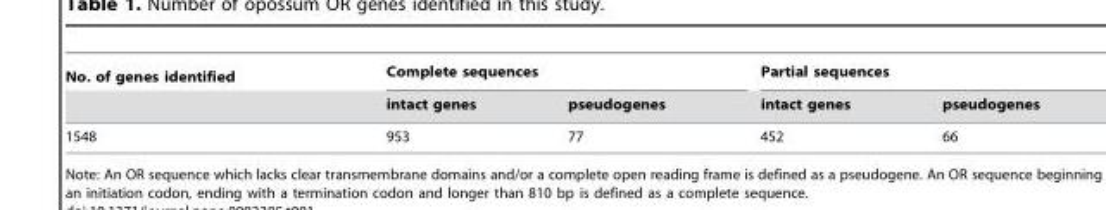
<table><thead><tr><td rowspan="2">No. of genes identified</td><td colspan="2">Complete sequences</td><td colspan="2">Partial sequences</td></tr><tr><td>intact genes</td><td>pseudogenes</td><td>intact genes</td><td>pseudogenes</td></tr></thead><tbody><tr><td>1548</td><td>953</td><td>77</td><td>452</td><td>66</td></tr></tbody></table>